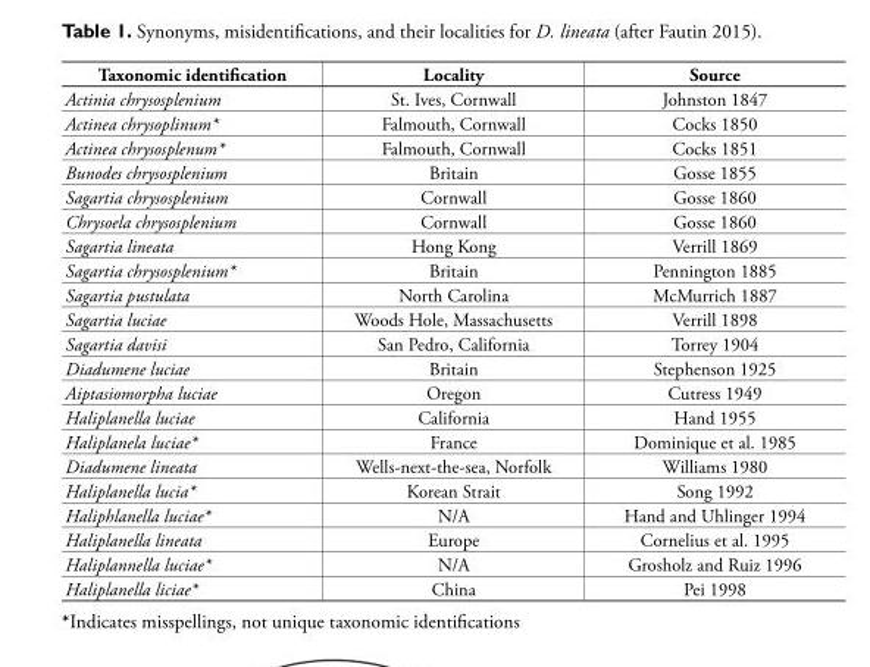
<table><thead><tr><td>Taxonomic identification</td><td>Locality</td><td>Source</td></tr></thead><tbody><tr><td>Actinia chrysosplenium</td><td>St. Ives, Cornwall</td><td>Johnston 1847</td></tr><tr><td>Actinea chrysoplinum*</td><td>Falmouth, Cornwall</td><td>Cocks 1850</td></tr><tr><td>Actinea chrysosplenum*</td><td>Falmouth, Cornwall</td><td>Cocks 1851</td></tr><tr><td>Bunodes chrysosplenium</td><td>Britain</td><td>Gosse 1855</td></tr><tr><td>Sagartia chrysosplenium</td><td>Cornwall</td><td>Gosse 1860</td></tr><tr><td>Chrysoela chrysosplenium</td><td>Cornwall</td><td>Gosse 1860</td></tr><tr><td>Sagartia lineata</td><td>Hong Kong</td><td>Verrill 1869</td></tr><tr><td>Sagartia chrysosplenium*</td><td>Britain</td><td>Pennington 1885</td></tr><tr><td>Sagartia pustulata</td><td>North Carolina</td><td>McMurrich 1887</td></tr><tr><td>Sagartia luciae</td><td>Woods Hole, Massachusetts</td><td>Verrill 1898</td></tr><tr><td>Sagartia davisi</td><td>San Pedro, California</td><td>Torrey 1904</td></tr><tr><td>Diadumene luciae</td><td>Britain</td><td>Stephenson 1925</td></tr><tr><td>Aiptasiomorpha luciae</td><td>Oregon</td><td>Cutress 1949</td></tr><tr><td>Haliplanella luciae</td><td>California</td><td>Hand 1955</td></tr><tr><td>Haliplanela luciae*</td><td>France</td><td>Dominique et al. 1985</td></tr><tr><td>Diadumene lineata</td><td>Wells-next-the-sea, Norfolk</td><td>Williams 1980</td></tr><tr><td>Haliplanella lucia*</td><td>Korean Strait</td><td>Song 1992</td></tr><tr><td>Haliphlanella luciae*</td><td>N/A</td><td>Hand and Uhlinger 1994</td></tr><tr><td>Haliplanella lineata</td><td>Europe</td><td>Cornelius et al. 1995</td></tr><tr><td>Haliplannella luciae*</td><td>N/A</td><td>Grosholz and Ruiz 1996</td></tr><tr><td>Haliplanella liciae*</td><td>China</td><td>Pei 1998</td></tr></tbody></table>